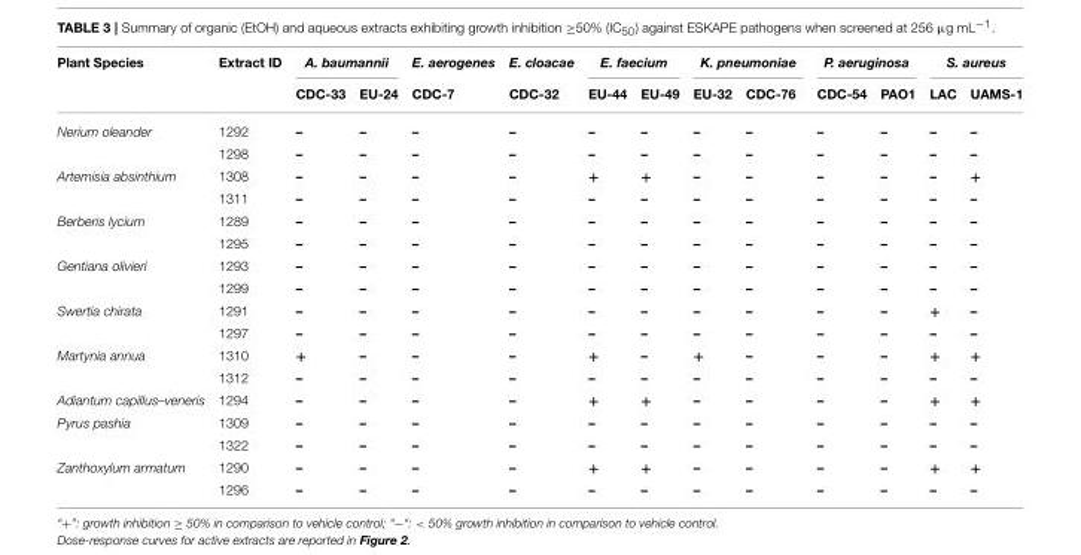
<table><thead><tr><td rowspan="2">Plant Species</td><td rowspan="2">Extract ID</td><td colspan="2">A. baumannii</td><td rowspan="2">E. aerogenes CDC-7</td><td rowspan="2">E. cloacae CDC-32</td><td colspan="2">E. faecium</td><td colspan="2">K. pneumoniae</td><td colspan="2">P. aeruginosa</td><td colspan="2">S. aureus</td></tr><tr><td>CDC-33</td><td>EU-24</td><td>EU-44</td><td>EU-49</td><td>EU-32</td><td>CDC-76</td><td>CDC-54</td><td>PAO1</td><td>LAC</td><td>UAMS-1</td></tr></thead><tbody><tr><td rowspan="2">Nerium oleander</td><td>1292</td><td>–</td><td>–</td><td>–</td><td>–</td><td>–</td><td>–</td><td>–</td><td>–</td><td>–</td><td>–</td><td>–</td><td>–</td></tr><tr><td>1298</td><td>–</td><td>–</td><td>–</td><td>–</td><td>–</td><td>–</td><td>–</td><td>–</td><td>–</td><td>–</td><td>–</td><td>–</td></tr><tr><td rowspan="2">Artemisia absinthium</td><td>1308</td><td>–</td><td>–</td><td>–</td><td>–</td><td>+</td><td>+</td><td>–</td><td>–</td><td>–</td><td>–</td><td>–</td><td>+</td></tr><tr><td>1311</td><td>–</td><td>–</td><td>–</td><td>–</td><td>–</td><td>–</td><td>–</td><td>–</td><td>–</td><td>–</td><td>–</td><td>–</td></tr><tr><td rowspan="2">Berberis lycium</td><td>1289</td><td>–</td><td>–</td><td>–</td><td>–</td><td>–</td><td>–</td><td>–</td><td>–</td><td>–</td><td>–</td><td>–</td><td>–</td></tr><tr><td>1295</td><td>–</td><td>–</td><td>–</td><td>–</td><td>–</td><td>–</td><td>–</td><td>–</td><td>–</td><td>–</td><td>–</td><td>–</td></tr><tr><td rowspan="2">Gentiana olivieri</td><td>1293</td><td>–</td><td>–</td><td>–</td><td>–</td><td>–</td><td>–</td><td>–</td><td>–</td><td>–</td><td>–</td><td>–</td><td>–</td></tr><tr><td>1299</td><td>–</td><td>–</td><td>–</td><td>–</td><td>–</td><td>–</td><td>–</td><td>–</td><td>–</td><td>–</td><td>–</td><td>–</td></tr><tr><td rowspan="2">Swertia chirata</td><td>1291</td><td>–</td><td>–</td><td>–</td><td>–</td><td>–</td><td>–</td><td>–</td><td>–</td><td>–</td><td>–</td><td>+</td><td>–</td></tr><tr><td>1297</td><td>–</td><td>–</td><td>–</td><td>–</td><td>–</td><td>–</td><td>–</td><td>–</td><td>–</td><td>–</td><td>–</td><td>–</td></tr><tr><td rowspan="2">Martynia annua</td><td>1310</td><td>+</td><td>–</td><td>–</td><td>–</td><td>+</td><td>–</td><td>+</td><td>–</td><td>–</td><td>–</td><td>+</td><td>+</td></tr><tr><td>1312</td><td>–</td><td>–</td><td>–</td><td>–</td><td>–</td><td>–</td><td>–</td><td>–</td><td>–</td><td>–</td><td>–</td><td>–</td></tr><tr><td>Adiantum capillus–veneris</td><td>1294</td><td>–</td><td>–</td><td>–</td><td>–</td><td>+</td><td>+</td><td>–</td><td>–</td><td>–</td><td>–</td><td>+</td><td>+</td></tr><tr><td rowspan="2">Pyrus pashia</td><td>1309</td><td>–</td><td>–</td><td>–</td><td>–</td><td>–</td><td>–</td><td>–</td><td>–</td><td>–</td><td>–</td><td>–</td><td>–</td></tr><tr><td>1322</td><td>–</td><td>–</td><td>–</td><td>–</td><td>–</td><td>–</td><td>–</td><td>–</td><td>–</td><td>–</td><td>–</td><td>–</td></tr><tr><td rowspan="2">Zanthoxylum armatum</td><td>1290</td><td>–</td><td>–</td><td>–</td><td>–</td><td>+</td><td>+</td><td>–</td><td>–</td><td>–</td><td>–</td><td>+</td><td>+</td></tr><tr><td>1296</td><td>–</td><td>–</td><td>–</td><td>–</td><td>–</td><td>–</td><td>–</td><td>–</td><td>–</td><td>–</td><td>–</td><td>–</td></tr></tbody></table>